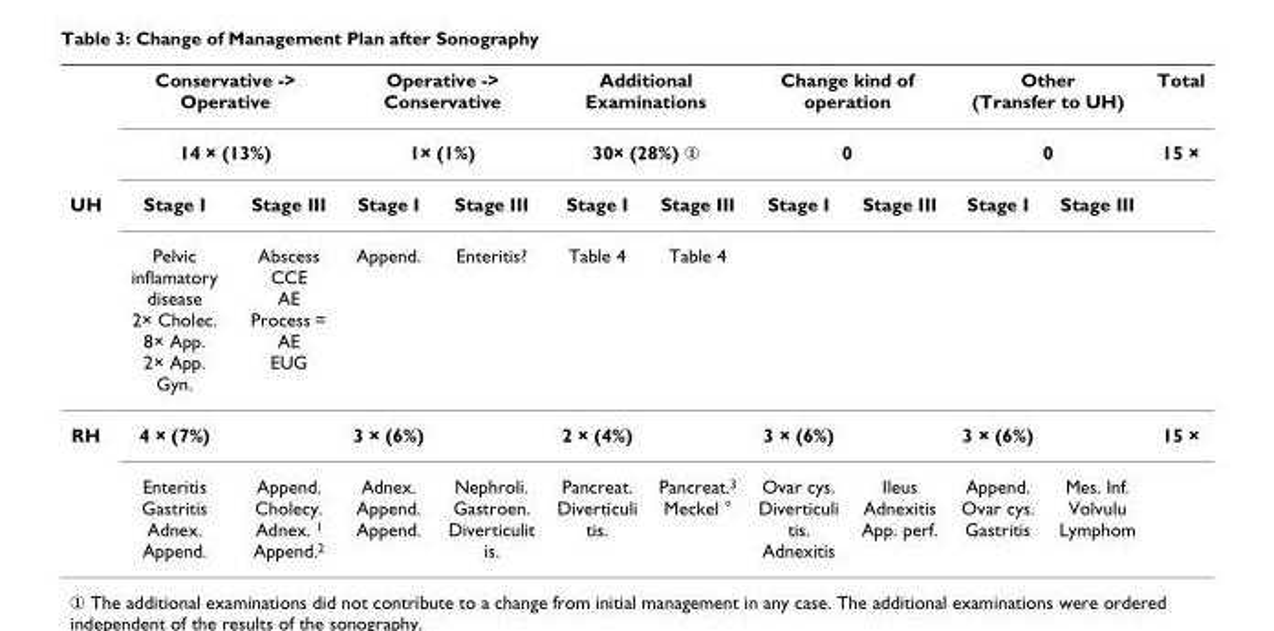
<table><thead><tr><td rowspan="4">UH</td><td rowspan="2" colspan="2">Conservative -&gt; Operative 14 × (13%)</td><td rowspan="2" colspan="2">Operative -&gt; Conservative 1× (1%)</td><td rowspan="2" colspan="2">Additional Examinations 30× (28%) ①</td><td rowspan="2" colspan="2">Change kind of operation 0</td><td rowspan="2" colspan="2">Other (Transfer to UH) 0</td><td rowspan="4">Total 15 ×</td></tr><tr></tr><tr><td rowspan="2">Stage I Pelvic inflamatory disease 2× Cholec. 8× App. 2× App. Gyn.</td><td rowspan="2">Stage III Abscess CCE AE Process = AE EUG</td><td rowspan="2">Stage I Append.</td><td rowspan="2">Stage III Enteritis?</td><td rowspan="2">Stage I Table 4</td><td rowspan="2">Stage III Table 4</td><td rowspan="2">Stage I</td><td rowspan="2">Stage III</td><td rowspan="2">Stage I</td><td rowspan="2">Stage III</td></tr><tr></tr></thead><tbody><tr><td rowspan="2">RH</td><td>4 × (7%)</td><td></td><td>3 × (6%)</td><td></td><td>2 × (4%)</td><td></td><td>3 × (6%)</td><td></td><td>3 × (6%)</td><td></td><td>15 ×</td></tr><tr><td>Enteritis Gastritis Adnex. Append.</td><td>Append. Cholecy. Adnex. <sup>1</sup> Append.<sup>2</sup></td><td>Adnex. Append. Append.</td><td>Nephroli. Gastroen. Diverticulit is.</td><td>Pancreat. Diverticuli tis.</td><td>Pancreat.<sup>3</sup> Meckel °</td><td>Ovar cys. Diverticuli tis. Adnexitis</td><td>Ileus Adnexitis App. perf.</td><td>Append. Ovar cys. Gastritis</td><td>Mes. Inf. Volvulu Lymphom</td><td></td></tr></tbody></table>